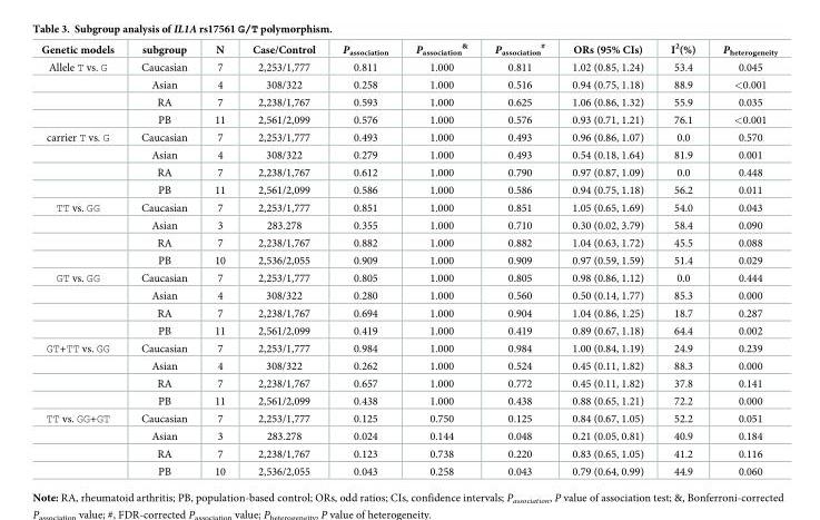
<table><thead><tr><td>Genetic models</td><td>subgroup</td><td>N</td><td>Case/Control</td><td>P<sub>association</sub></td><td>P<sub>association</sub> <sup>&amp;</sup></td><td>P<sub>association</sub> <sup>#</sup></td><td>ORs (95% CIs)</td><td>I<sup>2</sup>(%)</td><td>P<sub>heterogeneity</sub></td></tr></thead><tbody><tr><td rowspan="4">Allele T vs. G</td><td>Caucasian</td><td>7</td><td>2,253/1,777</td><td>0.811</td><td>1.000</td><td>0.811</td><td>1.02 (0.85, 1.24)</td><td>53.4</td><td>0.045</td></tr><tr><td>Asian</td><td>4</td><td>308/322</td><td>0.258</td><td>1.000</td><td>0.516</td><td>0.94 (0.75, 1.18)</td><td>88.9</td><td>&lt;0.001</td></tr><tr><td>RA</td><td>7</td><td>2,238/1,767</td><td>0.593</td><td>1.000</td><td>0.625</td><td>1.06 (0.86, 1.32)</td><td>55.9</td><td>0.035</td></tr><tr><td>PB</td><td>11</td><td>2,561/2,099</td><td>0.576</td><td>1.000</td><td>0.576</td><td>0.93 (0.71, 1.21)</td><td>76.1</td><td>&lt;0.001</td></tr><tr><td rowspan="4">carrier T vs. G</td><td>Caucasian</td><td>7</td><td>2,253/1,777</td><td>0.493</td><td>1.000</td><td>0.493</td><td>0.96 (0.86, 1.07)</td><td>0.0</td><td>0.570</td></tr><tr><td>Asian</td><td>4</td><td>308/322</td><td>0.279</td><td>1.000</td><td>0.493</td><td>0.54 (0.18, 1.64)</td><td>81.9</td><td>0.001</td></tr><tr><td>RA</td><td>7</td><td>2,238/1,767</td><td>0.612</td><td>1.000</td><td>0.790</td><td>0.97 (0.87, 1.09)</td><td>0.0</td><td>0.448</td></tr><tr><td>PB</td><td>11</td><td>2,561/2,099</td><td>0.586</td><td>1.000</td><td>0.586</td><td>0.94 (0.75, 1.18)</td><td>56.2</td><td>0.011</td></tr><tr><td rowspan="4">TT vs. GG</td><td>Caucasian</td><td>7</td><td>2,253/1,777</td><td>0.851</td><td>1.000</td><td>0.851</td><td>1.05 (0.65, 1.69)</td><td>54.0</td><td>0.043</td></tr><tr><td>Asian</td><td>3</td><td>283.278</td><td>0.355</td><td>1.000</td><td>0.710</td><td>0.30 (0.02, 3.79)</td><td>58.4</td><td>0.090</td></tr><tr><td>RA</td><td>7</td><td>2,238/1,767</td><td>0.882</td><td>1.000</td><td>0.882</td><td>1.04 (0.63, 1.72)</td><td>45.5</td><td>0.088</td></tr><tr><td>PB</td><td>10</td><td>2,536/2,055</td><td>0.909</td><td>1.000</td><td>0.909</td><td>0.97 (0.59, 1.59)</td><td>51.4</td><td>0.029</td></tr><tr><td rowspan="4">GT vs. GG</td><td>Caucasian</td><td>7</td><td>2,253/1,777</td><td>0.805</td><td>1.000</td><td>0.805</td><td>0.98 (0.86, 1.12)</td><td>0.0</td><td>0.444</td></tr><tr><td>Asian</td><td>4</td><td>308/322</td><td>0.280</td><td>1.000</td><td>0.560</td><td>0.50 (0.14, 1.77)</td><td>85.3</td><td>0.000</td></tr><tr><td>RA</td><td>7</td><td>2,238/1,767</td><td>0.694</td><td>1.000</td><td>0.904</td><td>1.04 (0.86, 1.25)</td><td>18.7</td><td>0.287</td></tr><tr><td>PB</td><td>11</td><td>2,561/2,099</td><td>0.419</td><td>1.000</td><td>0.419</td><td>0.89 (0.67, 1.18)</td><td>64.4</td><td>0.002</td></tr><tr><td rowspan="4">GT+TT vs. GG</td><td>Caucasian</td><td>7</td><td>2,253/1,777</td><td>0.984</td><td>1.000</td><td>0.984</td><td>1.00 (0.84, 1.19)</td><td>24.9</td><td>0.239</td></tr><tr><td>Asian</td><td>4</td><td>308/322</td><td>0.262</td><td>1.000</td><td>0.524</td><td>0.45 (0.11, 1.82)</td><td>88.3</td><td>0.000</td></tr><tr><td>RA</td><td>7</td><td>2,238/1,767</td><td>0.657</td><td>1.000</td><td>0.772</td><td>0.45 (0.11, 1.82)</td><td>37.8</td><td>0.141</td></tr><tr><td>PB</td><td>11</td><td>2,561/2,099</td><td>0.438</td><td>1.000</td><td>0.438</td><td>0.88 (0.65, 1.21)</td><td>72.2</td><td>0.000</td></tr><tr><td rowspan="4">TT vs. GG+GT</td><td>Caucasian</td><td>7</td><td>2,253/1,777</td><td>0.125</td><td>0.750</td><td>0.125</td><td>0.84 (0.67, 1.05)</td><td>52.2</td><td>0.051</td></tr><tr><td>Asian</td><td>3</td><td>283.278</td><td>0.024</td><td>0.144</td><td>0.048</td><td>0.21 (0.05, 0.81)</td><td>40.9</td><td>0.184</td></tr><tr><td>RA</td><td>7</td><td>2,238/1,767</td><td>0.123</td><td>0.738</td><td>0.220</td><td>0.83 (0.65, 1.05)</td><td>41.2</td><td>0.116</td></tr><tr><td>PB</td><td>10</td><td>2,536/2,055</td><td>0.043</td><td>0.258</td><td>0.043</td><td>0.79 (0.64, 0.99)</td><td>44.9</td><td>0.060</td></tr></tbody></table>